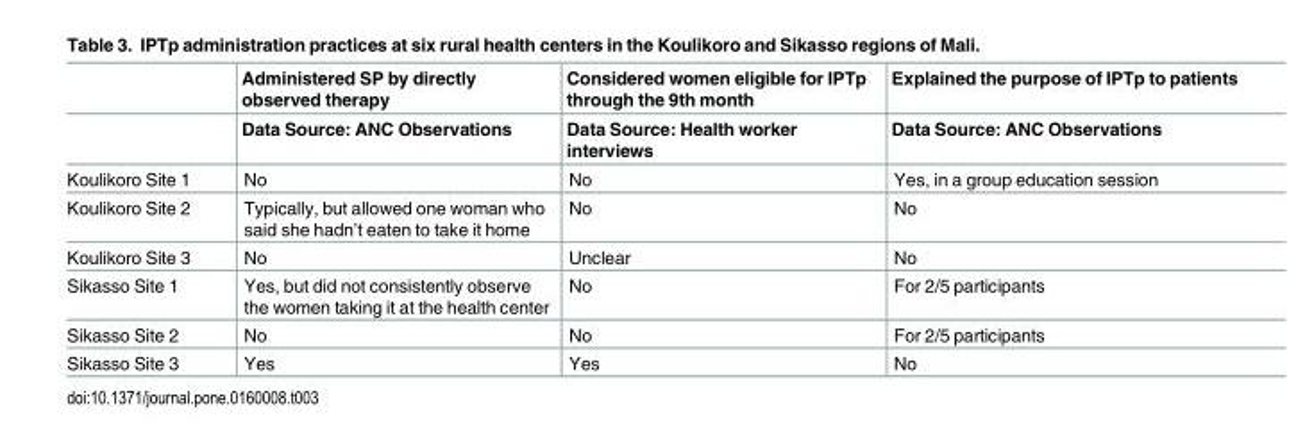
<table><thead><tr><td rowspan="2"></td><td rowspan="2">Administered SP by directly observed therapy Data Source: ANC Observations</td><td rowspan="2">Considered women eligible for IPTp through the 9th month Data Source: Health worker interviews</td><td rowspan="2">Explained the purpose of IPTp to patients Data Source: ANC Observations</td></tr><tr></tr></thead><tbody><tr><td>Koulikoro Site 1</td><td>No</td><td>No</td><td>Yes, in a group education session</td></tr><tr><td>Koulikoro Site 2</td><td>Typically, but allowed one woman who said she hadn’t eaten to take it home</td><td>No</td><td>No</td></tr><tr><td>Koulikoro Site 3</td><td>No</td><td>Unclear</td><td>No</td></tr><tr><td>Sikasso Site 1</td><td>Yes, but did not consistently observe the women taking it at the health center</td><td>No</td><td>For 2/5 participants</td></tr><tr><td>Sikasso Site 2</td><td>No</td><td>No</td><td>For 2/5 participants</td></tr><tr><td>Sikasso Site 3</td><td>Yes</td><td>Yes</td><td>No</td></tr></tbody></table>